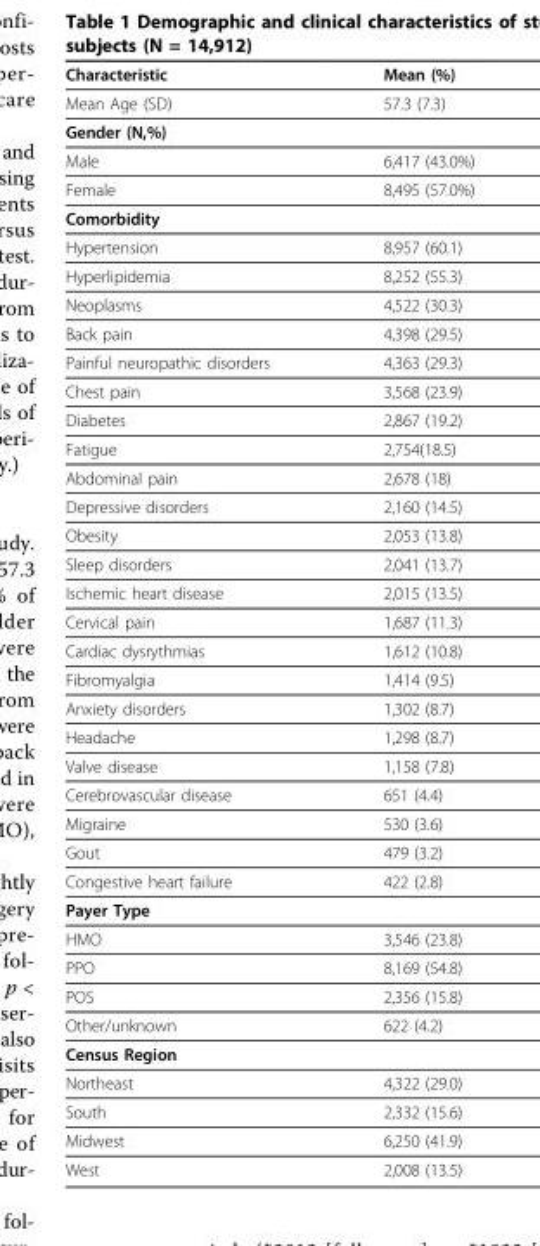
<table><thead><tr><td>Characteristic</td><td>Mean (%)</td></tr></thead><tbody><tr><td>Mean Age (SD)</td><td>57.3 (7.3)</td></tr><tr><td colspan="2">Gender (N,%)</td></tr><tr><td>Male</td><td>6,417 (43.0%)</td></tr><tr><td>Female</td><td>8,495 (57.0%)</td></tr><tr><td colspan="2">Comorbidity</td></tr><tr><td>Hypertension</td><td>8,957 (60.1)</td></tr><tr><td>Hyperlipidemia</td><td>8,252 (55.3)</td></tr><tr><td>Neoplasms</td><td>4,522 (30.3)</td></tr><tr><td>Back pain</td><td>4,398 (29.5)</td></tr><tr><td>Painful neuropathic disorders</td><td>4,363 (29.3)</td></tr><tr><td>Chest pain</td><td>3,568 (23.9)</td></tr><tr><td>Diabetes</td><td>2,867 (19.2)</td></tr><tr><td>Fatigue</td><td>2,754(18.5)</td></tr><tr><td>Abdominal pain</td><td>2,678 (18)</td></tr><tr><td>Depressive disorders</td><td>2,160 (14.5)</td></tr><tr><td>Obesity</td><td>2,053 (13.8)</td></tr><tr><td>Sleep disorders</td><td>2,041 (13.7)</td></tr><tr><td>Ischemic heart disease</td><td>2,015 (13.5)</td></tr><tr><td>Cervical pain</td><td>1,687 (11.3)</td></tr><tr><td>Cardiac dysrythmias</td><td>1,612 (10.8)</td></tr><tr><td>Fibromyalgia</td><td>1,414 (9.5)</td></tr><tr><td>Anxiety disorders</td><td>1,302 (8.7)</td></tr><tr><td>Headache</td><td>1,298 (8.7)</td></tr><tr><td>Valve disease</td><td>1,158 (7.8)</td></tr><tr><td>Cerebrovascular disease</td><td>651 (4.4)</td></tr><tr><td>Migraine</td><td>530 (3.6)</td></tr><tr><td>Gout</td><td>479 (3.2)</td></tr><tr><td>Congestive heart failure</td><td>422 (2.8)</td></tr><tr><td colspan="2">Payer Type</td></tr><tr><td>HMO</td><td>3,546 (23.8)</td></tr><tr><td>PPO</td><td>8,169 (54.8)</td></tr><tr><td>POS</td><td>2,356 (15.8)</td></tr><tr><td>Other/unknown</td><td>622 (4.2)</td></tr><tr><td colspan="2">Census Region</td></tr><tr><td>Northeast</td><td>4,322 (29.0)</td></tr><tr><td>South</td><td>2,332 (15.6)</td></tr><tr><td>Midwest</td><td>6,250 (41.9)</td></tr><tr><td>West</td><td>2,008 (13.5)</td></tr></tbody></table>